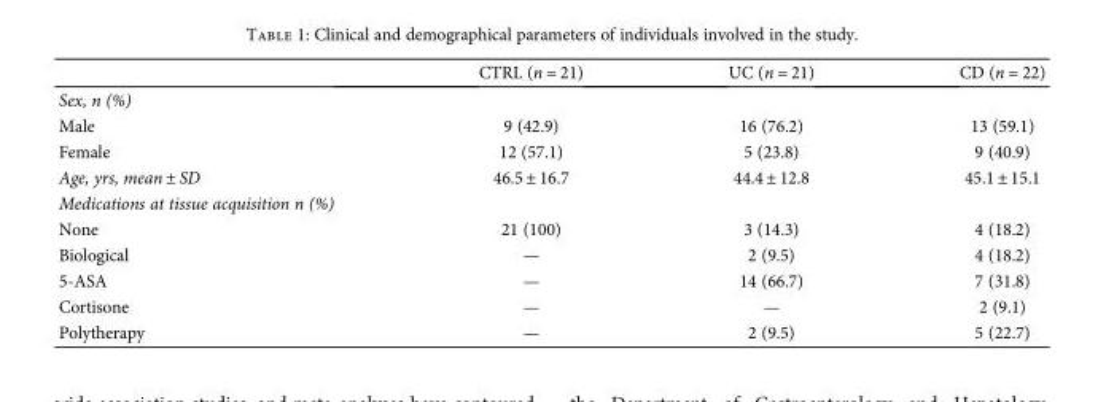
<table><thead><tr><td></td><td>CTRL (n = 21)</td><td>UC (n = 21)</td><td>CD (n = 22)</td></tr></thead><tbody><tr><td colspan="4">Sex, n (%)</td></tr><tr><td>Male</td><td>9 (42.9)</td><td>16 (76.2)</td><td>13 (59.1)</td></tr><tr><td>Female</td><td>12 (57.1)</td><td>5 (23.8)</td><td>9 (40.9)</td></tr><tr><td>Age, yrs, mean ± SD</td><td>46.5 ± 16.7</td><td>44.4 ± 12.8</td><td>45.1 ± 15.1</td></tr><tr><td colspan="4">Medications at tissue acquisition n (%)</td></tr><tr><td>None</td><td>21 (100)</td><td>3 (14.3)</td><td>4 (18.2)</td></tr><tr><td>Biological</td><td>—</td><td>2 (9.5)</td><td>4 (18.2)</td></tr><tr><td>5-ASA</td><td>—</td><td>14 (66.7)</td><td>7 (31.8)</td></tr><tr><td>Cortisone</td><td>—</td><td>—</td><td>2 (9.1)</td></tr><tr><td>Polytherapy</td><td>—</td><td>2 (9.5)</td><td>5 (22.7)</td></tr></tbody></table>